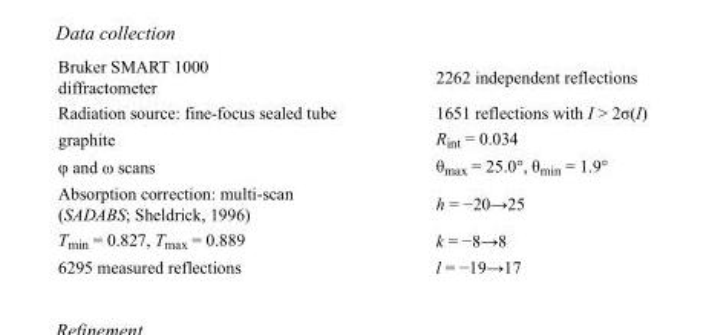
<table><tbody><tr><td>Bruker SMART 1000 diffractometer</td><td>2262 independent reflections</td></tr><tr><td>Radiation source: fine-focus sealed tube</td><td>1651 reflections with I &gt; 2σ(I)</td></tr><tr><td>graphite</td><td>R<sub>int</sub> = 0.034</td></tr><tr><td>φ and ω scans</td><td>θ<sub>max</sub> = 25.0°, θ<sub>min</sub> = 1.9°</td></tr><tr><td>Absorption correction: multi-scan (SADABS; Sheldrick, 1996)</td><td>h = −20→25</td></tr><tr><td>T<sub>min</sub> = 0.827, T<sub>max</sub> = 0.889</td><td>k = −8→8</td></tr><tr><td>6295 measured reflections</td><td>l = −19→17</td></tr></tbody></table>